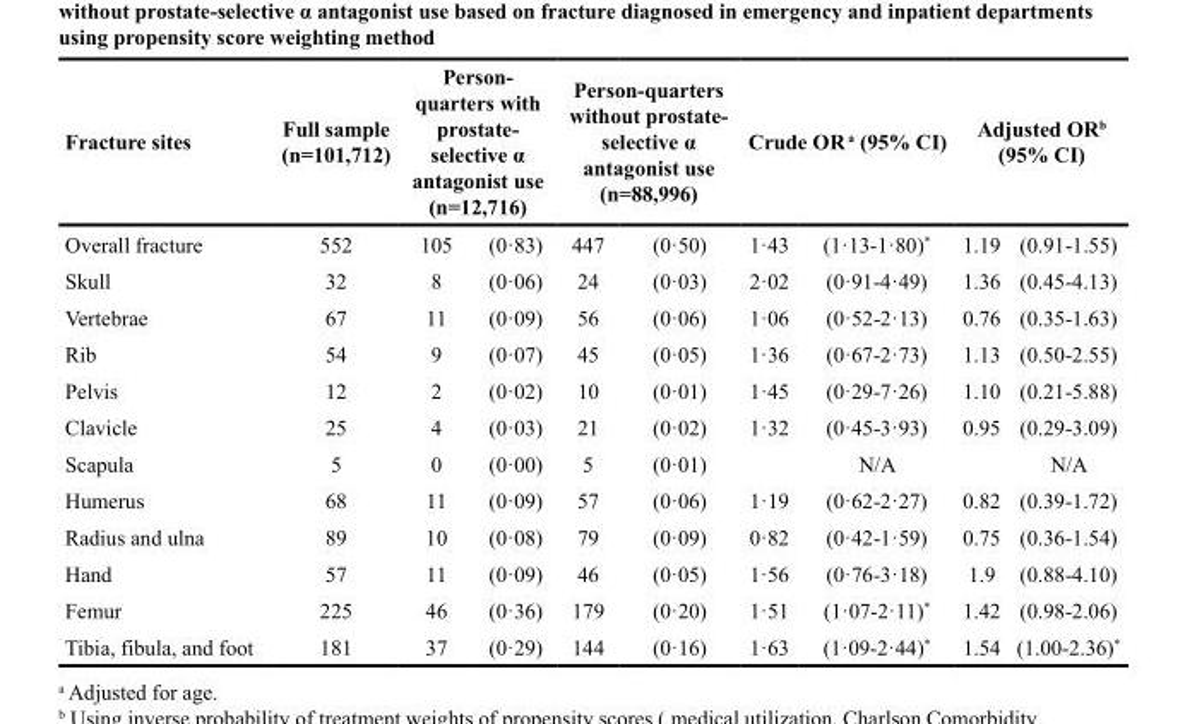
<table><thead><tr><td rowspan="2">Fracture sites Overall fracture</td><td rowspan="2">Full sample (n=101,712) 552</td><td colspan="2">Person- quarters with prostate- selective α antagonist use (n=12,716)</td><td colspan="2">Person-quarters without prostate- selective α antagonist use (n=88,996)</td><td colspan="2">Crude OR <sup>a</sup> (95% CI)</td><td colspan="2">Adjusted OR<sup>b</sup> (95% CI)</td></tr><tr><td>105</td><td>(0·83)</td><td>447</td><td>(0·50)</td><td>1·43</td><td>(1·13-1·80)*</td><td>1.19</td><td>(0.91-1.55)</td></tr></thead><tbody><tr><td>Skull</td><td>32</td><td>8</td><td>(0·06)</td><td>24</td><td>(0·03)</td><td>2·02</td><td>(0·91-4·49)</td><td>1.36</td><td>(0.45-4.13)</td></tr><tr><td>Vertebrae</td><td>67</td><td>11</td><td>(0·09)</td><td>56</td><td>(0·06)</td><td>1·06</td><td>(0·52-2·13)</td><td>0.76</td><td>(0.35-1.63)</td></tr><tr><td>Rib</td><td>54</td><td>9</td><td>(0·07)</td><td>45</td><td>(0·05)</td><td>1·36</td><td>(0·67-2·73)</td><td>1.13</td><td>(0.50-2.55)</td></tr><tr><td>Pelvis</td><td>12</td><td>2</td><td>(0·02)</td><td>10</td><td>(0·01)</td><td>1·45</td><td>(0·29-7·26)</td><td>1.10</td><td>(0.21-5.88)</td></tr><tr><td>Clavicle</td><td>25</td><td>4</td><td>(0·03)</td><td>21</td><td>(0·02)</td><td>1·32</td><td>(0·45-3·93)</td><td>0.95</td><td>(0.29-3.09)</td></tr><tr><td>Scapula</td><td>5</td><td>0</td><td>(0·00)</td><td>5</td><td>(0·01)</td><td></td><td>N/A</td><td></td><td>N/A</td></tr><tr><td>Humerus</td><td>68</td><td>11</td><td>(0·09)</td><td>57</td><td>(0·06)</td><td>1·19</td><td>(0·62-2·27)</td><td>0.82</td><td>(0.39-1.72)</td></tr><tr><td>Radius and ulna</td><td>89</td><td>10</td><td>(0·08)</td><td>79</td><td>(0·09)</td><td>0·82</td><td>(0·42-1·59)</td><td>0.75</td><td>(0.36-1.54)</td></tr><tr><td>Hand</td><td>57</td><td>11</td><td>(0·09)</td><td>46</td><td>(0·05)</td><td>1·56</td><td>(0·76-3·18)</td><td>1.9</td><td>(0.88-4.10)</td></tr><tr><td>Femur</td><td>225</td><td>46</td><td>(0·36)</td><td>179</td><td>(0·20)</td><td>1·51</td><td>(1·07-2·11)*</td><td>1.42</td><td>(0.98-2.06)</td></tr><tr><td>Tibia, fibula, and foot</td><td>181</td><td>37</td><td>(0·29)</td><td>144</td><td>(0·16)</td><td>1·63</td><td>(1·09-2·44)*</td><td>1.54</td><td>(1.00-2.36)*</td></tr></tbody></table>